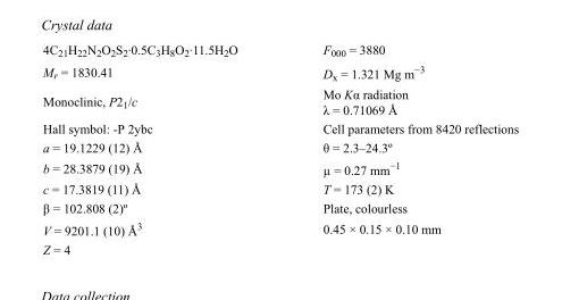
<table><tbody><tr><td>4C<sub>21</sub>H<sub>22</sub>N<sub>2</sub>O<sub>2</sub>S<sub>2</sub>·0.5C<sub>3</sub>H<sub>8</sub>O<sub>2</sub>·11.5H<sub>2</sub>O</td><td>F000 = 3880</td></tr><tr><td>M<sub>r</sub> = 1830.41</td><td>D<sub>x</sub> = 1.321 Mg m<sup>−3</sup></td></tr><tr><td>Monoclinic, P2<sub>1</sub>/c</td><td>Mo Kα radiation λ = 0.71069 Å</td></tr><tr><td>Hall symbol: -P 2ybc</td><td>Cell parameters from 8420 reflections</td></tr><tr><td>a = 19.1229 (12) Å</td><td>θ = 2.3–24.3º</td></tr><tr><td>b = 28.3879 (19) Å</td><td>µ = 0.27 mm<sup>−1</sup></td></tr><tr><td>c = 17.3819 (11) Å</td><td>T = 173 (2) K</td></tr><tr><td>β = 102.808 (2)º</td><td>Plate, colourless</td></tr><tr><td>V = 9201.1 (10) Å<sup>3</sup></td><td>0.45 × 0.15 × 0.10 mm</td></tr><tr><td>Z = 4</td><td></td></tr></tbody></table>